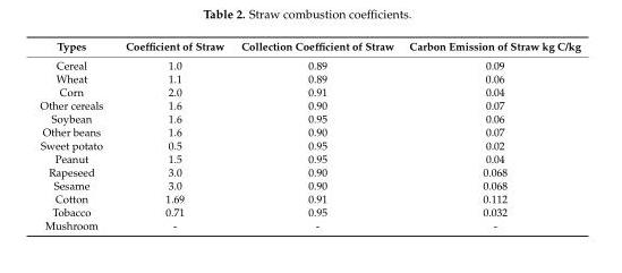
<table><thead><tr><td>Types</td><td>Coefficient of Straw</td><td>Collection Coefficient of Straw</td><td>Carbon Emission of Straw kg C/kg</td></tr></thead><tbody><tr><td>Cereal</td><td>1.0</td><td>0.89</td><td>0.09</td></tr><tr><td>Wheat</td><td>1.1</td><td>0.89</td><td>0.06</td></tr><tr><td>Corn</td><td>2.0</td><td>0.91</td><td>0.04</td></tr><tr><td>Other cereals</td><td>1.6</td><td>0.90</td><td>0.07</td></tr><tr><td>Soybean</td><td>1.6</td><td>0.95</td><td>0.06</td></tr><tr><td>Other beans</td><td>1.6</td><td>0.90</td><td>0.07</td></tr><tr><td>Sweet potato</td><td>0.5</td><td>0.95</td><td>0.02</td></tr><tr><td>Peanut</td><td>1.5</td><td>0.95</td><td>0.04</td></tr><tr><td>Rapeseed</td><td>3.0</td><td>0.90</td><td>0.068</td></tr><tr><td>Sesame</td><td>3.0</td><td>0.90</td><td>0.068</td></tr><tr><td>Cotton</td><td>1.69</td><td>0.91</td><td>0.112</td></tr><tr><td>Tobacco</td><td>0.71</td><td>0.95</td><td>0.032</td></tr><tr><td>Mushroom</td><td>-</td><td>-</td><td>-</td></tr></tbody></table>